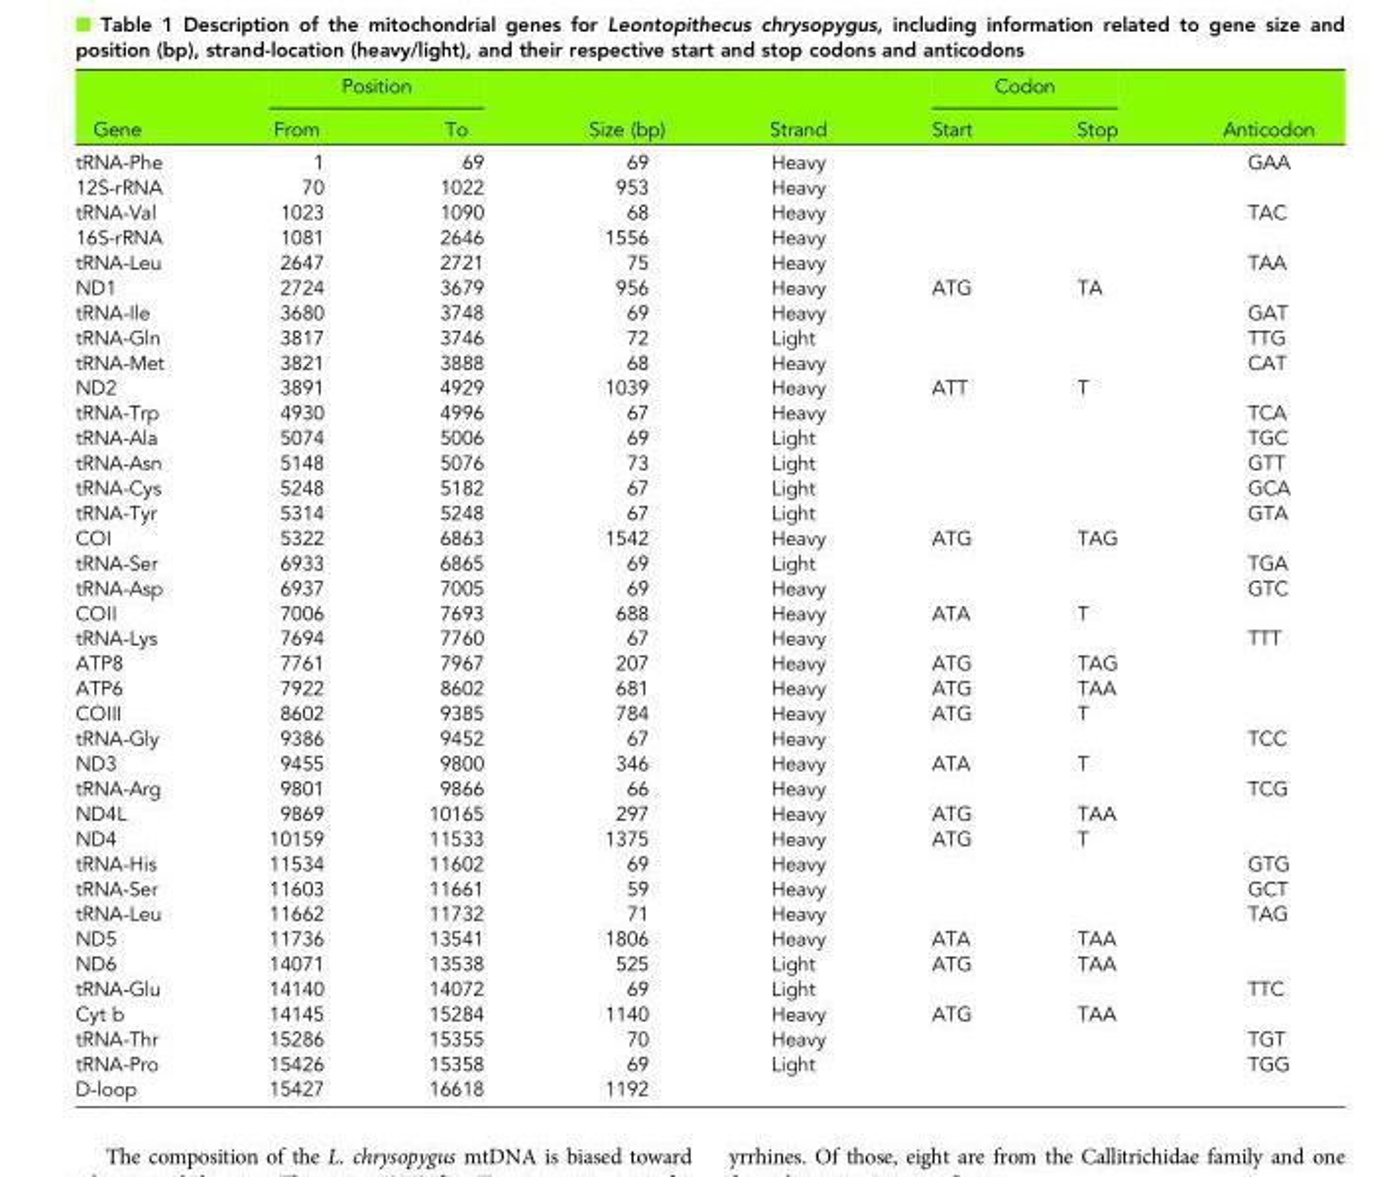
<table><thead><tr><td rowspan="2">Gene</td><td colspan="2">Position</td><td rowspan="2">Size (bp)</td><td rowspan="2">Strand</td><td colspan="2">Codon</td><td rowspan="2">Anticodon</td></tr><tr><td>From</td><td>To</td><td>Start</td><td>Stop</td></tr></thead><tbody><tr><td>tRNA-Phe</td><td>1</td><td>69</td><td>69</td><td>Heavy</td><td></td><td></td><td>GAA</td></tr><tr><td>12S-rRNA</td><td>70</td><td>1022</td><td>953</td><td>Heavy</td><td></td><td></td><td></td></tr><tr><td>tRNA-Val</td><td>1023</td><td>1090</td><td>68</td><td>Heavy</td><td></td><td></td><td>TAC</td></tr><tr><td>16S-rRNA</td><td>1081</td><td>2646</td><td>1556</td><td>Heavy</td><td></td><td></td><td></td></tr><tr><td>tRNA-Leu</td><td>2647</td><td>2721</td><td>75</td><td>Heavy</td><td></td><td></td><td>TAA</td></tr><tr><td>ND1</td><td>2724</td><td>3679</td><td>956</td><td>Heavy</td><td>ATG</td><td>TA</td><td></td></tr><tr><td>tRNA-Ile</td><td>3680</td><td>3748</td><td>69</td><td>Heavy</td><td></td><td></td><td>GAT</td></tr><tr><td>tRNA-Gln</td><td>3817</td><td>3746</td><td>72</td><td>Light</td><td></td><td></td><td>TTG</td></tr><tr><td>tRNA-Met</td><td>3821</td><td>3888</td><td>68</td><td>Heavy</td><td></td><td></td><td>CAT</td></tr><tr><td>ND2</td><td>3891</td><td>4929</td><td>1039</td><td>Heavy</td><td>ATT</td><td>T</td><td></td></tr><tr><td>tRNA-Trp</td><td>4930</td><td>4996</td><td>67</td><td>Heavy</td><td></td><td></td><td>TCA</td></tr><tr><td>tRNA-Ala</td><td>5074</td><td>5006</td><td>69</td><td>Light</td><td></td><td></td><td>TGC</td></tr><tr><td>tRNA-Asn</td><td>5148</td><td>5076</td><td>73</td><td>Light</td><td></td><td></td><td>GTT</td></tr><tr><td>tRNA-Cys</td><td>5248</td><td>5182</td><td>67</td><td>Light</td><td></td><td></td><td>GCA</td></tr><tr><td>tRNA-Tyr</td><td>5314</td><td>5248</td><td>67</td><td>Light</td><td></td><td></td><td>GTA</td></tr><tr><td>COI</td><td>5322</td><td>6863</td><td>1542</td><td>Heavy</td><td>ATG</td><td>TAG</td><td></td></tr><tr><td>tRNA-Ser</td><td>6933</td><td>6865</td><td>69</td><td>Light</td><td></td><td></td><td>TGA</td></tr><tr><td>tRNA-Asp</td><td>6937</td><td>7005</td><td>69</td><td>Heavy</td><td></td><td></td><td>GTC</td></tr><tr><td>COII</td><td>7006</td><td>7693</td><td>688</td><td>Heavy</td><td>ATA</td><td>T</td><td></td></tr><tr><td>tRNA-Lys</td><td>7694</td><td>7760</td><td>67</td><td>Heavy</td><td></td><td></td><td>TTT</td></tr><tr><td>ATP8</td><td>7761</td><td>7967</td><td>207</td><td>Heavy</td><td>ATG</td><td>TAG</td><td></td></tr><tr><td>ATP6</td><td>7922</td><td>8602</td><td>681</td><td>Heavy</td><td>ATG</td><td>TAA</td><td></td></tr><tr><td>COIII</td><td>8602</td><td>9385</td><td>784</td><td>Heavy</td><td>ATG</td><td>T</td><td></td></tr><tr><td>tRNA-Gly</td><td>9386</td><td>9452</td><td>67</td><td>Heavy</td><td></td><td></td><td>TCC</td></tr><tr><td>ND3</td><td>9455</td><td>9800</td><td>346</td><td>Heavy</td><td>ATA</td><td>T</td><td></td></tr><tr><td>tRNA-Arg</td><td>9801</td><td>9866</td><td>66</td><td>Heavy</td><td></td><td></td><td>TCG</td></tr><tr><td>ND4L</td><td>9869</td><td>10165</td><td>297</td><td>Heavy</td><td>ATG</td><td>TAA</td><td></td></tr><tr><td>ND4</td><td>10159</td><td>11533</td><td>1375</td><td>Heavy</td><td>ATG</td><td>T</td><td></td></tr><tr><td>tRNA-His</td><td>11534</td><td>11602</td><td>69</td><td>Heavy</td><td></td><td></td><td>GTG</td></tr><tr><td>tRNA-Ser</td><td>11603</td><td>11661</td><td>59</td><td>Heavy</td><td></td><td></td><td>GCT</td></tr><tr><td>tRNA-Leu</td><td>11662</td><td>11732</td><td>71</td><td>Heavy</td><td></td><td></td><td>TAG</td></tr><tr><td>ND5</td><td>11736</td><td>13541</td><td>1806</td><td>Heavy</td><td>ATA</td><td>TAA</td><td></td></tr><tr><td>ND6</td><td>14071</td><td>13538</td><td>525</td><td>Light</td><td>ATG</td><td>TAA</td><td></td></tr><tr><td>tRNA-Glu</td><td>14140</td><td>14072</td><td>69</td><td>Light</td><td></td><td></td><td>TTC</td></tr><tr><td>Cyt b</td><td>14145</td><td>15284</td><td>1140</td><td>Heavy</td><td>ATG</td><td>TAA</td><td></td></tr><tr><td>tRNA-Thr</td><td>15286</td><td>15355</td><td>70</td><td>Heavy</td><td></td><td></td><td>TGT</td></tr><tr><td>tRNA-Pro</td><td>15426</td><td>15358</td><td>69</td><td>Light</td><td></td><td></td><td>TGG</td></tr><tr><td>D-loop</td><td>15427</td><td>16618</td><td>1192</td><td></td><td></td><td></td><td></td></tr></tbody></table>